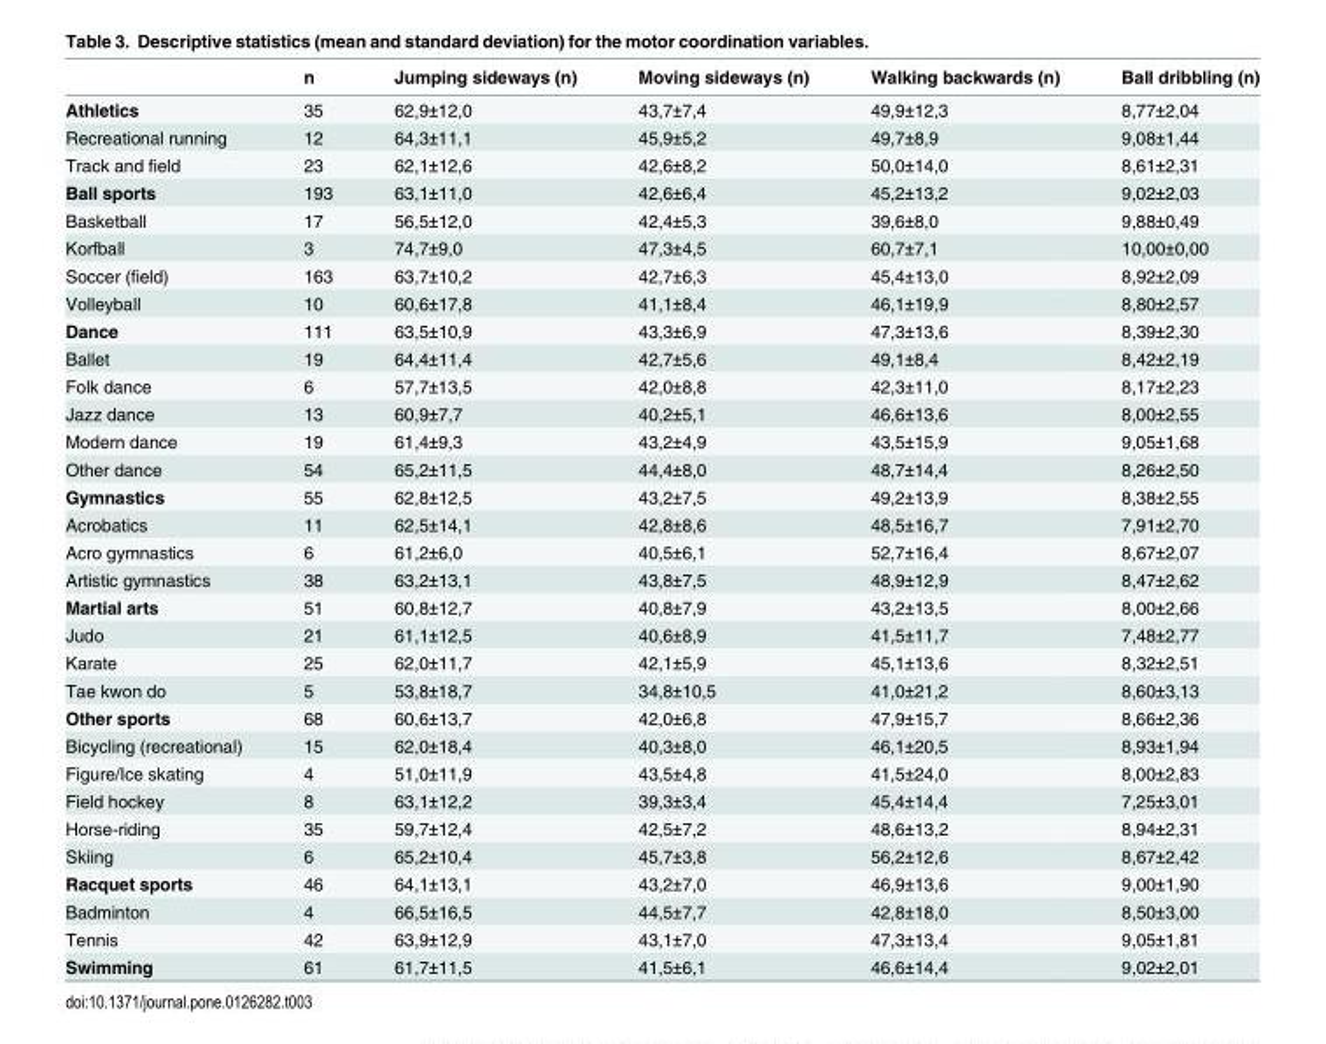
<table><thead><tr><td></td><td>n</td><td>Jumping sideways (n)</td><td>Moving sideways (n)</td><td>Walking backwards (n)</td><td>Ball dribbling (n)</td></tr></thead><tbody><tr><td>Athletics</td><td>35</td><td>62,9±12,0</td><td>43,7±7,4</td><td>49,9±12,3</td><td>8,77±2,04</td></tr><tr><td>Recreational running</td><td>12</td><td>64,3±11,1</td><td>45,9±5,2</td><td>49,7±8,9</td><td>9,08±1,44</td></tr><tr><td>Track and field</td><td>23</td><td>62,1±12,6</td><td>42,6±8,2</td><td>50,0±14,0</td><td>8,61±2,31</td></tr><tr><td>Ball sports</td><td>193</td><td>63,1±11,0</td><td>42,6±6,4</td><td>45,2±13,2</td><td>9,02±2,03</td></tr><tr><td>Basketball</td><td>17</td><td>56,5±12,0</td><td>42,4±5,3</td><td>39,6±8,0</td><td>9,88±0,49</td></tr><tr><td>Korfball</td><td>3</td><td>74,7±9,0</td><td>47,3±4,5</td><td>60,7±7,1</td><td>10,00±0,00</td></tr><tr><td>Soccer (field)</td><td>163</td><td>63,7±10,2</td><td>42,7±6,3</td><td>45,4±13,0</td><td>8,92±2,09</td></tr><tr><td>Volleyball</td><td>10</td><td>60,6±17,8</td><td>41,1±8,4</td><td>46,1±19,9</td><td>8,80±2,57</td></tr><tr><td>Dance</td><td>111</td><td>63,5±10,9</td><td>43,3±6,9</td><td>47,3±13,6</td><td>8,39±2,30</td></tr><tr><td>Ballet</td><td>19</td><td>64,4±11,4</td><td>42,7±5,6</td><td>49,1±8,4</td><td>8,42±2,19</td></tr><tr><td>Folk dance</td><td>6</td><td>57,7±13,5</td><td>42,0±8,8</td><td>42,3±11,0</td><td>8,17±2,23</td></tr><tr><td>Jazz dance</td><td>13</td><td>60,9±7,7</td><td>40,2±5,1</td><td>46,6±13,6</td><td>8,00±2,55</td></tr><tr><td>Modern dance</td><td>19</td><td>61,4±9,3</td><td>43,2±4,9</td><td>43,5±15,9</td><td>9,05±1,68</td></tr><tr><td>Other dance</td><td>54</td><td>65,2±11,5</td><td>44,4±8,0</td><td>48,7±14,4</td><td>8,26±2,50</td></tr><tr><td>Gymnastics</td><td>55</td><td>62,8±12,5</td><td>43,2±7,5</td><td>49,2±13,9</td><td>8,38±2,55</td></tr><tr><td>Acrobatics</td><td>11</td><td>62,5±14,1</td><td>42,8±8,6</td><td>48,5±16,7</td><td>7,91±2,70</td></tr><tr><td>Acro gymnastics</td><td>6</td><td>61,2±6,0</td><td>40,5±6,1</td><td>52,7±16,4</td><td>8,67±2,07</td></tr><tr><td>Artistic gymnastics</td><td>38</td><td>63,2±13,1</td><td>43,8±7,5</td><td>48,9±12,9</td><td>8,47±2,62</td></tr><tr><td>Martial arts</td><td>51</td><td>60,8±12,7</td><td>40,8±7,9</td><td>43,2±13,5</td><td>8,00±2,66</td></tr><tr><td>Judo</td><td>21</td><td>61,1±12,5</td><td>40,6±8,9</td><td>41,5±11,7</td><td>7,48±2,77</td></tr><tr><td>Karate</td><td>25</td><td>62,0±11,7</td><td>42,1±5,9</td><td>45,1±13,6</td><td>8,32±2,51</td></tr><tr><td>Tae kwon do</td><td>5</td><td>53,8±18,7</td><td>34,8±10,5</td><td>41,0±21,2</td><td>8,60±3,13</td></tr><tr><td>Other sports</td><td>68</td><td>60,6±13,7</td><td>42,0±6,8</td><td>47,9±15,7</td><td>8,66±2,36</td></tr><tr><td>Bicycling (recreational)</td><td>15</td><td>62,0±18,4</td><td>40,3±8,0</td><td>46,1±20,5</td><td>8,93±1,94</td></tr><tr><td>Figure/Ice skating</td><td>4</td><td>51,0±11,9</td><td>43,5±4,8</td><td>41,5±24,0</td><td>8,00±2,83</td></tr><tr><td>Field hockey</td><td>8</td><td>63,1±12,2</td><td>39,3±3,4</td><td>45,4±14,4</td><td>7,25±3,01</td></tr><tr><td>Horse-riding</td><td>35</td><td>59,7±12,4</td><td>42,5±7,2</td><td>48,6±13,2</td><td>8,94±2,31</td></tr><tr><td>Skiing</td><td>6</td><td>65,2±10,4</td><td>45,7±3,8</td><td>56,2±12,6</td><td>8,67±2,42</td></tr><tr><td>Racquet sports</td><td>46</td><td>64,1±13,1</td><td>43,2±7,0</td><td>46,9±13,6</td><td>9,00±1,90</td></tr><tr><td>Badminton</td><td>4</td><td>66,5±16,5</td><td>44,5±7,7</td><td>42,8±18,0</td><td>8,50±3,00</td></tr><tr><td>Tennis</td><td>42</td><td>63,9±12,9</td><td>43,1±7,0</td><td>47,3±13,4</td><td>9,05±1,81</td></tr><tr><td>Swimming</td><td>61</td><td>61,7±11,5</td><td>41,5±6,1</td><td>46,6±14,4</td><td>9,02±2,01</td></tr></tbody></table>